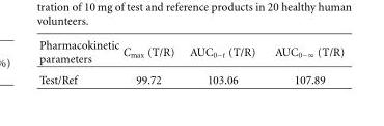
<table><thead><tr><td>Pharmacokinetic parameters</td><td>C<sub>max</sub> (T/R)</td><td>AUC<sub>0−t</sub> (T/R)</td><td>AUC<sub>0−∞</sub> (T/R)</td></tr></thead><tbody><tr><td>Test/Ref</td><td>99.72</td><td>103.06</td><td>107.89</td></tr></tbody></table>